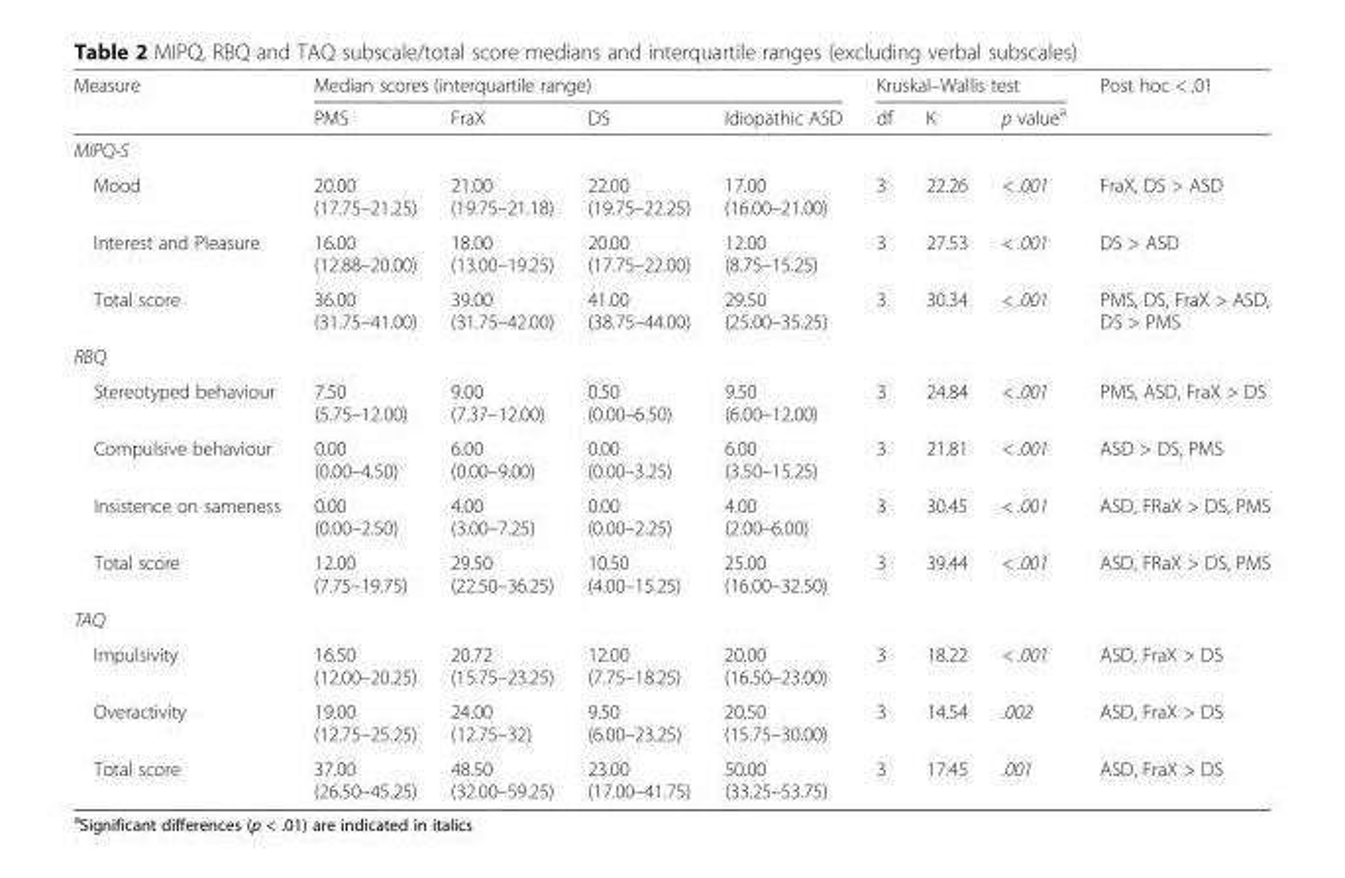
<table><thead><tr><td rowspan="2">Measure</td><td colspan="4">Median scores (interquartile range)</td><td colspan="3">Kruskal–Wallis test</td><td rowspan="2">Post hoc &lt; .01</td></tr><tr><td>PMS</td><td>FraX</td><td>DS</td><td>Idiopathic ASD</td><td>df</td><td>K</td><td>p value<sup>a</sup></td></tr></thead><tbody><tr><td colspan="9">MIPQ-S</td></tr><tr><td>Mood</td><td>20.00 (17.75–21.25)</td><td>21.00 (19.75–21.18)</td><td>22.00 (19.75–22.25)</td><td>17.00 (16.00–21.00)</td><td>3</td><td>22.26</td><td>&lt; .001</td><td>FraX, DS &gt; ASD</td></tr><tr><td>Interest and Pleasure</td><td>16.00 (12.88–20.00)</td><td>18.00 (13.00–19.25)</td><td>20.00 (17.75–22.00)</td><td>12.00 (8.75–15.25)</td><td>3</td><td>27.53</td><td>&lt; .001</td><td>DS &gt; ASD</td></tr><tr><td>Total score</td><td>36.00 (31.75–41.00)</td><td>39.00 (31.75–42.00)</td><td>41.00 (38.75–44.00)</td><td>29.50 (25.00–35.25)</td><td>3</td><td>30.34</td><td>&lt; .001</td><td>PMS, DS, FraX &gt; ASD, DS &gt; PMS</td></tr><tr><td colspan="9">RBQ</td></tr><tr><td>Stereotyped behaviour</td><td>7.50 (5.75–12.00)</td><td>9.00 (7.37–12.00)</td><td>0.50 (0.00–6.50)</td><td>9.50 (6.00–12.00)</td><td>3</td><td>24.84</td><td>&lt; .001</td><td>PMS, ASD, FraX &gt; DS</td></tr><tr><td>Compulsive behaviour</td><td>0.00 (0.00–4.50)</td><td>6.00 (0.00–9.00)</td><td>0.00 (0.00–3.25)</td><td>6.00 (3.50–15.25)</td><td>3</td><td>21.81</td><td>&lt; .001</td><td>ASD &gt; DS, PMS</td></tr><tr><td>Insistence on sameness</td><td>0.00 (0.00–2.50)</td><td>4.00 (3.00–7.25)</td><td>0.00 (0.00–2.25)</td><td>4.00 (2.00–6.00)</td><td>3</td><td>30.45</td><td>&lt; .001</td><td>ASD, FRaX &gt; DS, PMS</td></tr><tr><td>Total score</td><td>12.00 (7.75–19.75)</td><td>29.50 (22.50–36.25)</td><td>10.50 (4.00–15.25)</td><td>25.00 (16.00–32.50)</td><td>3</td><td>39.44</td><td>&lt; .001</td><td>ASD, FRaX &gt; DS, PMS</td></tr><tr><td colspan="9">TAQ</td></tr><tr><td>Impulsivity</td><td>16.50 (12.00–20.25)</td><td>20.72 (15.75–23.25)</td><td>12.00 (7.75–18.25)</td><td>20.00 (16.50–23.00)</td><td>3</td><td>18.22</td><td>&lt; .001</td><td>ASD, FraX &gt; DS</td></tr><tr><td>Overactivity</td><td>19.00 (12.75–25.25)</td><td>24.00 (12.75–32)</td><td>9.50 (6.00–23.25)</td><td>20.50 (15.75–30.00)</td><td>3</td><td>14.54</td><td>.002</td><td>ASD, FraX &gt; DS</td></tr><tr><td>Total score</td><td>37.00 (26.50–45.25)</td><td>48.50 (32.00–59.25)</td><td>23.00 (17.00–41.75)</td><td>50.00 (33.25–53.75)</td><td>3</td><td>17.45</td><td>.001</td><td>ASD, FraX &gt; DS</td></tr></tbody></table>